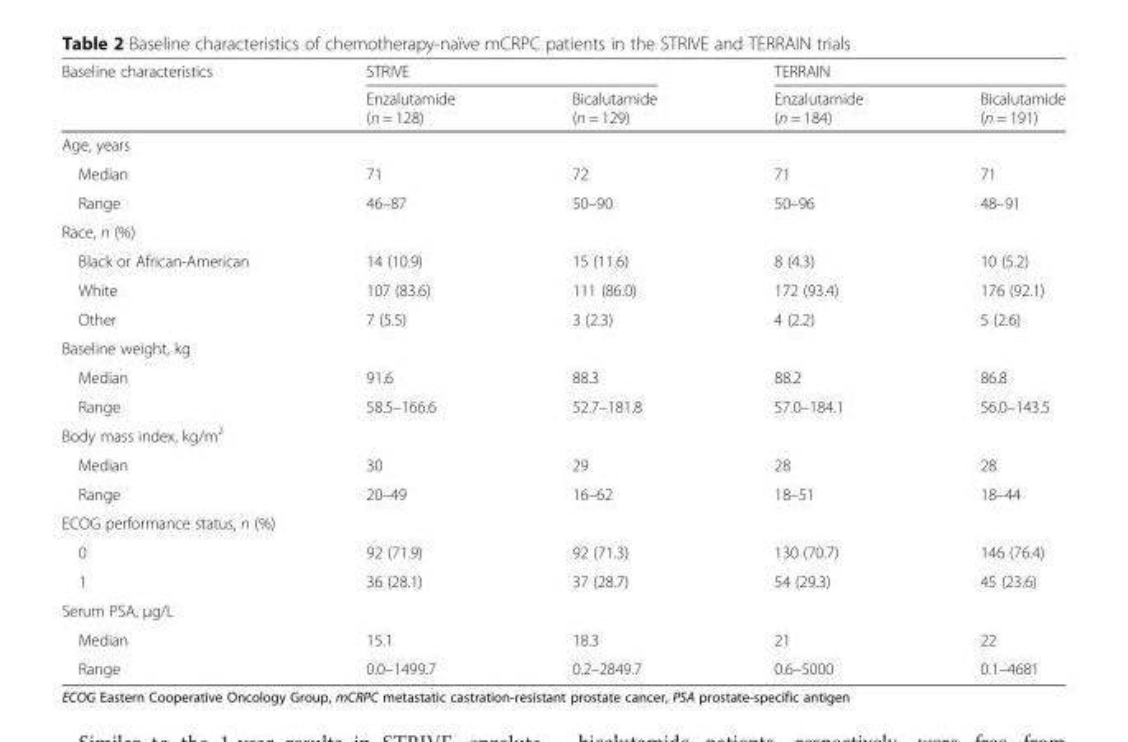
<table><thead><tr><td rowspan="2">Baseline characteristics</td><td colspan="2">STRIVE</td><td colspan="2">TERRAIN</td></tr><tr><td>Enzalutamide (n = 128)</td><td>Bicalutamide (n = 129)</td><td>Enzalutamide (n = 184)</td><td>Bicalutamide (n = 191)</td></tr></thead><tbody><tr><td colspan="5">Age, years</td></tr><tr><td>Median</td><td>71</td><td>72</td><td>71</td><td>71</td></tr><tr><td>Range</td><td>46–87</td><td>50–90</td><td>50–96</td><td>48–91</td></tr><tr><td colspan="5">Race, n (%)</td></tr><tr><td>Black or African-American</td><td>14 (10.9)</td><td>15 (11.6)</td><td>8 (4.3)</td><td>10 (5.2)</td></tr><tr><td>White</td><td>107 (83.6)</td><td>111 (86.0)</td><td>172 (93.4)</td><td>176 (92.1)</td></tr><tr><td>Other</td><td>7 (5.5)</td><td>3 (2.3)</td><td>4 (2.2)</td><td>5 (2.6)</td></tr><tr><td colspan="5">Baseline weight, kg</td></tr><tr><td>Median</td><td>91.6</td><td>88.3</td><td>88.2</td><td>86.8</td></tr><tr><td>Range</td><td>58.5–166.6</td><td>52.7–181.8</td><td>57.0–184.1</td><td>56.0–143.5</td></tr><tr><td colspan="5">Body mass index, kg/m<sup>2</sup></td></tr><tr><td>Median</td><td>30</td><td>29</td><td>28</td><td>28</td></tr><tr><td>Range</td><td>20–49</td><td>16–62</td><td>18–51</td><td>18–44</td></tr><tr><td colspan="5">ECOG performance status, n (%)</td></tr><tr><td>0</td><td>92 (71.9)</td><td>92 (71.3)</td><td>130 (70.7)</td><td>146 (76.4)</td></tr><tr><td>1</td><td>36 (28.1)</td><td>37 (28.7)</td><td>54 (29.3)</td><td>45 (23.6)</td></tr><tr><td colspan="5">Serum PSA, μg/L</td></tr><tr><td>Median</td><td>15.1</td><td>18.3</td><td>21</td><td>22</td></tr><tr><td>Range</td><td>0.0–1499.7</td><td>0.2–2849.7</td><td>0.6–5000</td><td>0.1–4681</td></tr></tbody></table>